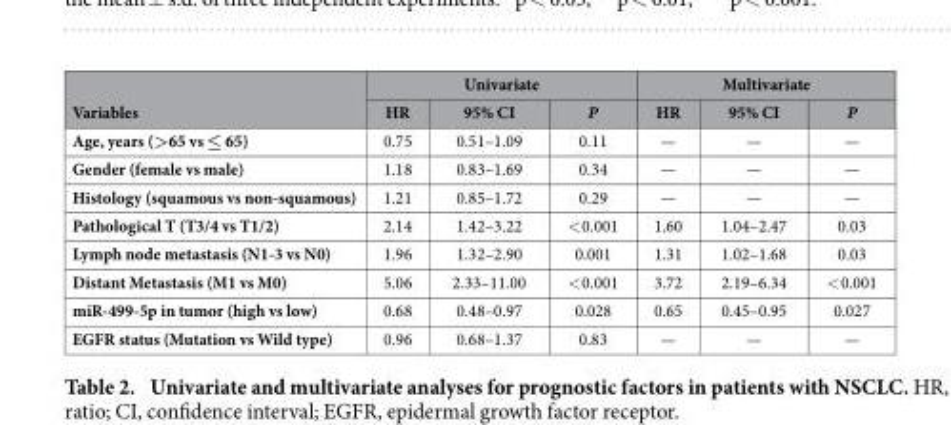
<table><thead><tr><td rowspan="2">Variables</td><td colspan="3">Univariate</td><td colspan="3">Multivariate</td></tr><tr><td>HR</td><td>95% CI</td><td>P</td><td>HR</td><td>95% CI</td><td>P</td></tr></thead><tbody><tr><td>Age, years (&gt;65 vs ≤ 65)</td><td>0.75</td><td>0.51–1.09</td><td>0.11</td><td>—</td><td>—</td><td>—</td></tr><tr><td>Gender (female vs male)</td><td>1.18</td><td>0.83–1.69</td><td>0.34</td><td>—</td><td>—</td><td>—</td></tr><tr><td>Histology (squamous vs non-squamous)</td><td>1.21</td><td>0.85–1.72</td><td>0.29</td><td>—</td><td>—</td><td>—</td></tr><tr><td>Pathological T (T3/4 vs T1/2)</td><td>2.14</td><td>1.42–3.22</td><td>&lt; 0.001</td><td>1.60</td><td>1.04–2.47</td><td>0.03</td></tr><tr><td>Lymph node metastasis (N1-3 vs N0)</td><td>1.96</td><td>1.32–2.90</td><td>0.001</td><td>1.31</td><td>1.02–1.68</td><td>0.03</td></tr><tr><td>Distant Metastasis (M1 vs M0)</td><td>5.06</td><td>2.33–11.00</td><td>&lt; 0.001</td><td>3.72</td><td>2.19–6.34</td><td>&lt; 0.001</td></tr><tr><td>miR-499-5p in tumor (high vs low)</td><td>0.68</td><td>0.48–0.97</td><td>0.028</td><td>0.65</td><td>0.45–0.95</td><td>0.027</td></tr><tr><td>EGFR status (Mutation vs Wild type)</td><td>0.96</td><td>0.68–1.37</td><td>0.83</td><td>—</td><td>—</td><td>—</td></tr></tbody></table>